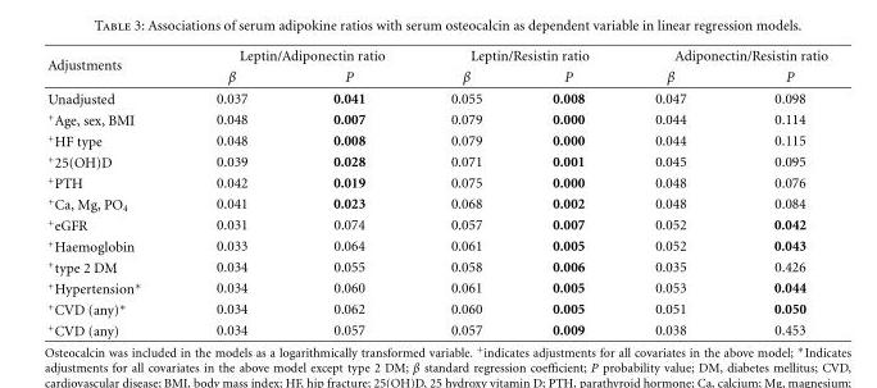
<table><thead><tr><td rowspan="2">Adjustments</td><td colspan="2">Leptin/Adiponectin ratio</td><td colspan="2">Leptin/Resistin ratio</td><td colspan="2">Adiponectin/Resistin ratio</td></tr><tr><td>β</td><td>P</td><td>β</td><td>P</td><td>β</td><td>P</td></tr></thead><tbody><tr><td>Unadjusted</td><td>0.037</td><td>0.041</td><td>0.055</td><td>0.008</td><td>0.047</td><td>0.098</td></tr><tr><td><sup>+</sup>Age, sex, BMI</td><td>0.048</td><td>0.007</td><td>0.079</td><td>0.000</td><td>0.044</td><td>0.114</td></tr><tr><td><sup>+</sup>HF type</td><td>0.048</td><td>0.008</td><td>0.079</td><td>0.000</td><td>0.044</td><td>0.115</td></tr><tr><td><sup>+</sup>25(OH)D</td><td>0.039</td><td>0.028</td><td>0.071</td><td>0.001</td><td>0.045</td><td>0.095</td></tr><tr><td><sup>+</sup>PTH</td><td>0.042</td><td>0.019</td><td>0.075</td><td>0.000</td><td>0.048</td><td>0.076</td></tr><tr><td><sup>+</sup>Ca, Mg, PO<sub>4</sub></td><td>0.041</td><td>0.023</td><td>0.068</td><td>0.002</td><td>0.048</td><td>0.084</td></tr><tr><td><sup>+</sup>eGFR</td><td>0.031</td><td>0.074</td><td>0.057</td><td>0.007</td><td>0.052</td><td>0.042</td></tr><tr><td><sup>+</sup>Haemoglobin</td><td>0.033</td><td>0.064</td><td>0.061</td><td>0.005</td><td>0.052</td><td>0.043</td></tr><tr><td><sup>+</sup>type 2 DM</td><td>0.034</td><td>0.055</td><td>0.058</td><td>0.006</td><td>0.035</td><td>0.426</td></tr><tr><td>+Hypertension∗</td><td>0.034</td><td>0.060</td><td>0.061</td><td>0.005</td><td>0.053</td><td>0.044</td></tr><tr><td>+CVD (any)∗</td><td>0.034</td><td>0.062</td><td>0.060</td><td>0.005</td><td>0.051</td><td>0.050</td></tr><tr><td>+CVD (any)</td><td>0.034</td><td>0.057</td><td>0.057</td><td>0.009</td><td>0.038</td><td>0.453</td></tr></tbody></table>